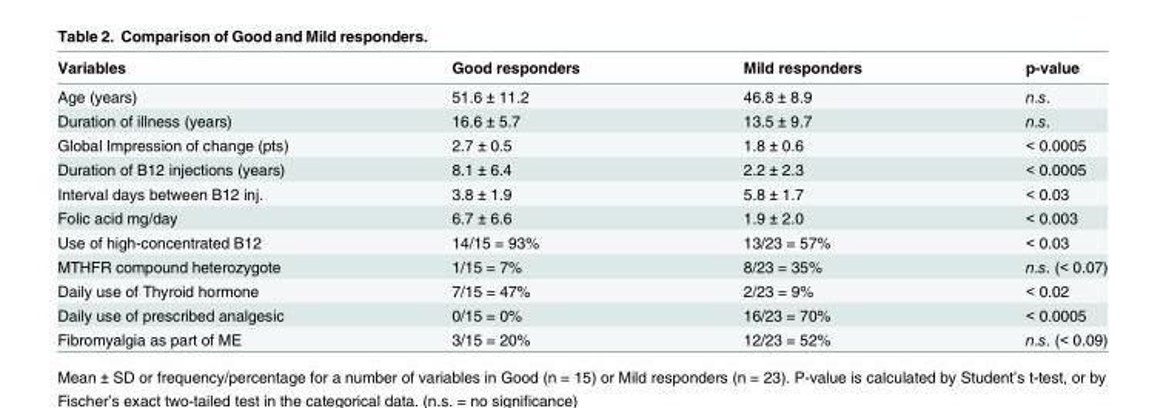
<table><thead><tr><td>Variables</td><td>Good responders</td><td>Mild responders</td><td>p-value</td></tr></thead><tbody><tr><td>Age (years)</td><td>51.6 ± 11.2</td><td>46.8 ± 8.9</td><td>n.s.</td></tr><tr><td>Duration of illness (years)</td><td>16.6 ± 5.7</td><td>13.5 ± 9.7</td><td>n.s.</td></tr><tr><td>Global Impression of change (pts)</td><td>2.7 ± 0.5</td><td>1.8 ± 0.6</td><td>&lt; 0.0005</td></tr><tr><td>Duration of B12 injections (years)</td><td>8.1 ± 6.4</td><td>2.2 ± 2.3</td><td>&lt; 0.0005</td></tr><tr><td>Interval days between B12 inj.</td><td>3.8 ± 1.9</td><td>5.8 ± 1.7</td><td>&lt; 0.03</td></tr><tr><td>Folic acid mg/day</td><td>6.7 ± 6.6</td><td>1.9 ± 2.0</td><td>&lt; 0.003</td></tr><tr><td>Use of high-concentrated B12</td><td>14/15 = 93%</td><td>13/23 = 57%</td><td>&lt; 0.03</td></tr><tr><td>MTHFR compound heterozygote</td><td>1/15 = 7%</td><td>8/23 = 35%</td><td>n.s. (&lt; 0.07)</td></tr><tr><td>Daily use of Thyroid hormone</td><td>7/15 = 47%</td><td>2/23 = 9%</td><td>&lt; 0.02</td></tr><tr><td>Daily use of prescribed analgesic</td><td>0/15 = 0%</td><td>16/23 = 70%</td><td>&lt; 0.0005</td></tr><tr><td>Fibromyalgia as part of ME</td><td>3/15 = 20%</td><td>12/23 = 52%</td><td>n.s. (&lt; 0.09)</td></tr></tbody></table>